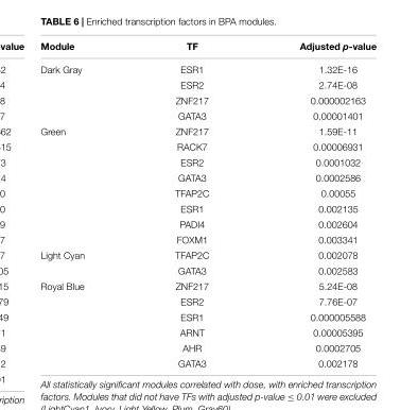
<table><thead><tr><td>Module</td><td>TF</td><td>Adjusted p-value</td></tr></thead><tbody><tr><td rowspan="4">Dark Gray</td><td>ESR1</td><td>1.32E-16</td></tr><tr><td>ESR2</td><td>2.74E-08</td></tr><tr><td>ZNF217</td><td>0.000002163</td></tr><tr><td>GATA3</td><td>0.00001401</td></tr><tr><td rowspan="8">Green</td><td>ZNF217</td><td>1.59E-11</td></tr><tr><td>RACK7</td><td>0.00006931</td></tr><tr><td>ESR2</td><td>0.0001032</td></tr><tr><td>GATA3</td><td>0.0002586</td></tr><tr><td>TFAP2C</td><td>0.00055</td></tr><tr><td>ESR1</td><td>0.002135</td></tr><tr><td>PADI4</td><td>0.002604</td></tr><tr><td>FOXM1</td><td>0.003341</td></tr><tr><td rowspan="2">Light Cyan</td><td>TFAP2C</td><td>0.002078</td></tr><tr><td>GATA3</td><td>0.002583</td></tr><tr><td rowspan="6">Royal Blue</td><td>ZNF217</td><td>5.24E-08</td></tr><tr><td>ESR2</td><td>7.76E-07</td></tr><tr><td>ESR1</td><td>0.000005588</td></tr><tr><td>ARNT</td><td>0.00005395</td></tr><tr><td>AHR</td><td>0.0002705</td></tr><tr><td>GATA3</td><td>0.002178</td></tr></tbody></table>